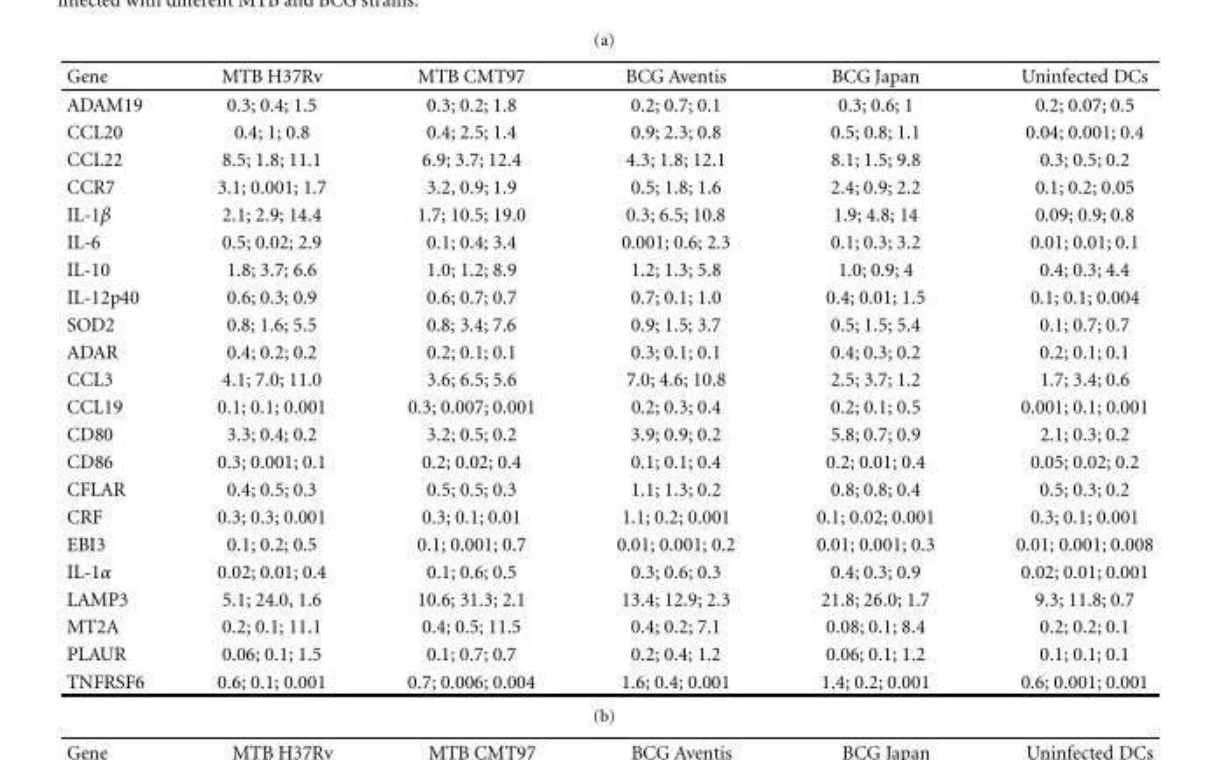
<table><thead><tr><td>Gene</td><td>MTB H37Rv</td><td>MTB CMT97</td><td>BCG Aventis</td><td>BCG Japan</td><td>Uninfected DCs</td></tr></thead><tbody><tr><td>ADAM19</td><td>0.3; 0.4; 1.5</td><td>0.3; 0.2; 1.8</td><td>0.2; 0.7; 0.1</td><td>0.3; 0.6; 1</td><td>0.2; 0.07; 0.5</td></tr><tr><td>CCL20</td><td>0.4; 1; 0.8</td><td>0.4; 2.5; 1.4</td><td>0.9; 2.3; 0.8</td><td>0.5; 0.8; 1.1</td><td>0.04; 0.001; 0.4</td></tr><tr><td>CCL22</td><td>8.5; 1.8; 11.1</td><td>6.9; 3.7; 12.4</td><td>4.3; 1.8; 12.1</td><td>8.1; 1.5; 9.8</td><td>0.3; 0.5; 0.2</td></tr><tr><td>CCR7</td><td>3.1; 0.001; 1.7</td><td>3.2, 0.9; 1.9</td><td>0.5; 1.8; 1.6</td><td>2.4; 0.9; 2.2</td><td>0.1; 0.2; 0.05</td></tr><tr><td>IL-1β</td><td>2.1; 2.9; 14.4</td><td>1.7; 10.5; 19.0</td><td>0.3; 6.5; 10.8</td><td>1.9; 4.8; 14</td><td>0.09; 0.9; 0.8</td></tr><tr><td>IL-6</td><td>0.5; 0.02; 2.9</td><td>0.1; 0.4; 3.4</td><td>0.001; 0.6; 2.3</td><td>0.1; 0.3; 3.2</td><td>0.01; 0.01; 0.1</td></tr><tr><td>IL-10</td><td>1.8; 3.7; 6.6</td><td>1.0; 1.2; 8.9</td><td>1.2; 1.3; 5.8</td><td>1.0; 0.9; 4</td><td>0.4; 0.3; 4.4</td></tr><tr><td>IL-12p40</td><td>0.6; 0.3; 0.9</td><td>0.6; 0.7; 0.7</td><td>0.7; 0.1; 1.0</td><td>0.4; 0.01; 1.5</td><td>0.1; 0.1; 0.004</td></tr><tr><td>SOD2</td><td>0.8; 1.6; 5.5</td><td>0.8; 3.4; 7.6</td><td>0.9; 1.5; 3.7</td><td>0.5; 1.5; 5.4</td><td>0.1; 0.7; 0.7</td></tr><tr><td>ADAR</td><td>0.4; 0.2; 0.2</td><td>0.2; 0.1; 0.1</td><td>0.3; 0.1; 0.1</td><td>0.4; 0.3; 0.2</td><td>0.2; 0.1; 0.1</td></tr><tr><td>CCL3</td><td>4.1; 7.0; 11.0</td><td>3.6; 6.5; 5.6</td><td>7.0; 4.6; 10.8</td><td>2.5; 3.7; 1.2</td><td>1.7; 3.4; 0.6</td></tr><tr><td>CCL19</td><td>0.1; 0.1; 0.001</td><td>0.3; 0.007; 0.001</td><td>0.2; 0.3; 0.4</td><td>0.2; 0.1; 0.5</td><td>0.001; 0.1; 0.001</td></tr><tr><td>CD80</td><td>3.3; 0.4; 0.2</td><td>3.2; 0.5; 0.2</td><td>3.9; 0.9; 0.2</td><td>5.8; 0.7; 0.9</td><td>2.1; 0.3; 0.2</td></tr><tr><td>CD86</td><td>0.3; 0.001; 0.1</td><td>0.2; 0.02; 0.4</td><td>0.1; 0.1; 0.4</td><td>0.2; 0.01; 0.4</td><td>0.05; 0.02; 0.2</td></tr><tr><td>CFLAR</td><td>0.4; 0.5; 0.3</td><td>0.5; 0.5; 0.3</td><td>1.1; 1.3; 0.2</td><td>0.8; 0.8; 0.4</td><td>0.5; 0.3; 0.2</td></tr><tr><td>CRF</td><td>0.3; 0.3; 0.001</td><td>0.3; 0.1; 0.01</td><td>1.1; 0.2; 0.001</td><td>0.1; 0.02; 0.001</td><td>0.3; 0.1; 0.001</td></tr><tr><td>EBI3</td><td>0.1; 0.2; 0.5</td><td>0.1; 0.001; 0.7</td><td>0.01; 0.001; 0.2</td><td>0.01; 0.001; 0.3</td><td>0.01; 0.001; 0.008</td></tr><tr><td>IL-1α</td><td>0.02; 0.01; 0.4</td><td>0.1; 0.6; 0.5</td><td>0.3; 0.6; 0.3</td><td>0.4; 0.3; 0.9</td><td>0.02; 0.01; 0.001</td></tr><tr><td>LAMP3</td><td>5.1; 24.0, 1.6</td><td>10.6; 31.3; 2.1</td><td>13.4; 12.9; 2.3</td><td>21.8; 26.0; 1.7</td><td>9.3; 11.8; 0.7</td></tr><tr><td>MT2A</td><td>0.2; 0.1; 11.1</td><td>0.4; 0.5; 11.5</td><td>0.4; 0.2; 7.1</td><td>0.08; 0.1; 8.4</td><td>0.2; 0.2; 0.1</td></tr><tr><td>PLAUR</td><td>0.06; 0.1; 1.5</td><td>0.1; 0.7; 0.7</td><td>0.2; 0.4; 1.2</td><td>0.06; 0.1; 1.2</td><td>0.1; 0.1; 0.1</td></tr><tr><td>TNFRSF6</td><td>0.6; 0.1; 0.001</td><td>0.7; 0.006; 0.004</td><td>1.6; 0.4; 0.001</td><td>1.4; 0.2; 0.001</td><td>0.6; 0.001; 0.001</td></tr></tbody></table>